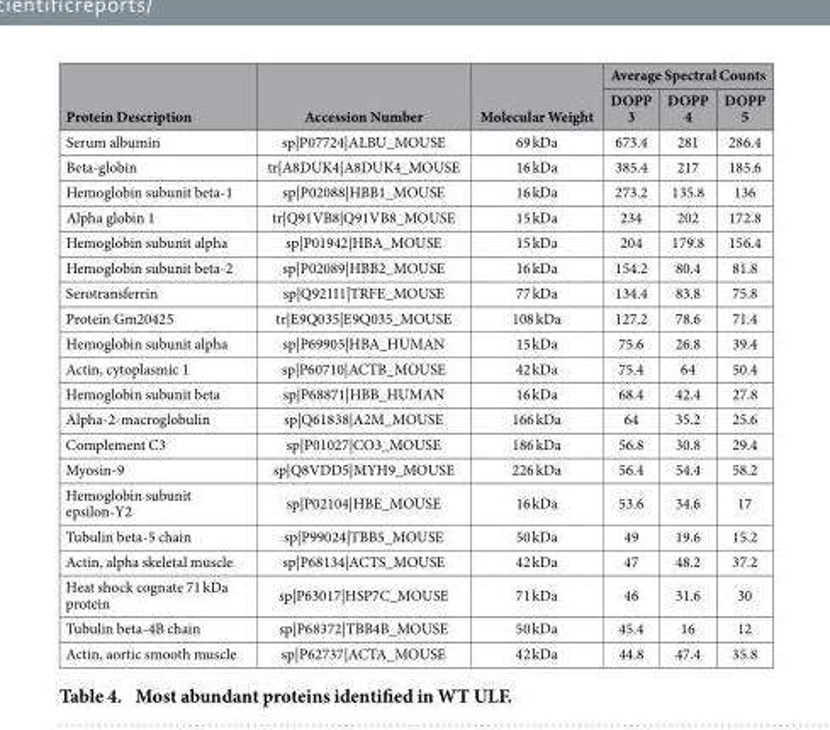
<table><thead><tr><td rowspan="2">Protein Description</td><td rowspan="2">Accession Number</td><td rowspan="2">Molecular Weight</td><td colspan="3">Average Spectral Counts</td></tr><tr><td>DOPP 3</td><td>DOPP 4</td><td>DOPP 5</td></tr></thead><tbody><tr><td>Serum albumin</td><td>sp|P07724|ALBU_MOUSE</td><td>69 kDa</td><td>673.4</td><td>281</td><td>286.4</td></tr><tr><td>Beta-globin</td><td>tr|A8DUK4|A8DUK4_MOUSE</td><td>16 kDa</td><td>385.4</td><td>217</td><td>185.6</td></tr><tr><td>Hemoglobin subunit beta-1</td><td>sp|P02088|HBB1_MOUSE</td><td>16 kDa</td><td>273.2</td><td>135.8</td><td>136</td></tr><tr><td>Alpha globin 1</td><td>tr|Q91VB8|Q91VB8_MOUSE</td><td>15 kDa</td><td>234</td><td>202</td><td>172.8</td></tr><tr><td>Hemoglobin subunit alpha</td><td>sp|P01942|HBA_MOUSE</td><td>15 kDa</td><td>204</td><td>179.8</td><td>156.4</td></tr><tr><td>Hemoglobin subunit beta-2</td><td>sp|P02089|HBB2_MOUSE</td><td>16 kDa</td><td>154.2</td><td>80.4</td><td>81.8</td></tr><tr><td>Serotransferrin</td><td>sp|Q921I1|TRFE_MOUSE</td><td>77 kDa</td><td>134.4</td><td>83.8</td><td>75.8</td></tr><tr><td>Protein Gm20425</td><td>tr|E9Q035|E9Q035_MOUSE</td><td>108 kDa</td><td>127.2</td><td>78.6</td><td>71.4</td></tr><tr><td>Hemoglobin subunit alpha</td><td>sp|P69905|HBA_HUMAN</td><td>15 kDa</td><td>75.6</td><td>26.8</td><td>39.4</td></tr><tr><td>Actin, cytoplasmic 1</td><td>sp|P60710|ACTB_MOUSE</td><td>42 kDa</td><td>75.4</td><td>64</td><td>50.4</td></tr><tr><td>Hemoglobin subunit beta</td><td>sp|P68871|HBB_HUMAN</td><td>16 kDa</td><td>68.4</td><td>42.4</td><td>27.8</td></tr><tr><td>Alpha-2-macroglobulin</td><td>sp|Q61838|A2M_MOUSE</td><td>166 kDa</td><td>64</td><td>35.2</td><td>25.6</td></tr><tr><td>Complement C3</td><td>sp|P01027|CO3_MOUSE</td><td>186 kDa</td><td>56.8</td><td>30.8</td><td>29.4</td></tr><tr><td>Myosin-9</td><td>sp|Q8VDD5|MYH9_MOUSE</td><td>226 kDa</td><td>56.4</td><td>54.4</td><td>58.2</td></tr><tr><td>Hemoglobin subunit epsilon-Y2</td><td>sp|P02104|HBE_MOUSE</td><td>16 kDa</td><td>53.6</td><td>34.6</td><td>17</td></tr><tr><td>Tubulin beta-5 chain</td><td>sp|P99024|TBB5_MOUSE</td><td>50 kDa</td><td>49</td><td>19.6</td><td>15.2</td></tr><tr><td>Actin, alpha skeletal muscle</td><td>sp|P68134|ACTS_MOUSE</td><td>42 kDa</td><td>47</td><td>48.2</td><td>37.2</td></tr><tr><td>Heat shock cognate 71 kDa protein</td><td>sp|P63017|HSP7C_MOUSE</td><td>71 kDa</td><td>46</td><td>31.6</td><td>30</td></tr><tr><td>Tubulin beta-4B chain</td><td>sp|P68372|TBB4B_MOUSE</td><td>50 kDa</td><td>45.4</td><td>16</td><td>12</td></tr><tr><td>Actin, aortic smooth muscle</td><td>sp|P62737|ACTA_MOUSE</td><td>42 kDa</td><td>44.8</td><td>47.4</td><td>35.8</td></tr></tbody></table>